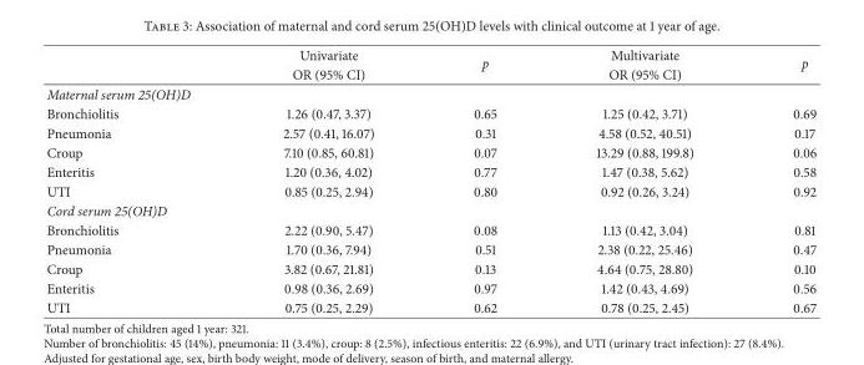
<table><thead><tr><td rowspan="2"></td><td rowspan="2">Univariate OR (95% CI)</td><td rowspan="2">p</td><td rowspan="2">Multivariate OR (95% CI)</td><td rowspan="2">p</td></tr><tr></tr></thead><tbody><tr><td colspan="5">Maternal serum 25(OH)D</td></tr><tr><td>Bronchiolitis</td><td>1.26 (0.47, 3.37)</td><td>0.65</td><td>1.25 (0.42, 3.71)</td><td>0.69</td></tr><tr><td>Pneumonia</td><td>2.57 (0.41, 16.07)</td><td>0.31</td><td>4.58 (0.52, 40.51)</td><td>0.17</td></tr><tr><td>Croup</td><td>7.10 (0.85, 60.81)</td><td>0.07</td><td>13.29 (0.88, 199.8)</td><td>0.06</td></tr><tr><td>Enteritis</td><td>1.20 (0.36, 4.02)</td><td>0.77</td><td>1.47 (0.38, 5.62)</td><td>0.58</td></tr><tr><td>UTI</td><td>0.85 (0.25, 2.94)</td><td>0.80</td><td>0.92 (0.26, 3.24)</td><td>0.92</td></tr><tr><td colspan="5">Cord serum 25(OH)D</td></tr><tr><td>Bronchiolitis</td><td>2.22 (0.90, 5.47)</td><td>0.08</td><td>1.13 (0.42, 3.04)</td><td>0.81</td></tr><tr><td>Pneumonia</td><td>1.70 (0.36, 7.94)</td><td>0.51</td><td>2.38 (0.22, 25.46)</td><td>0.47</td></tr><tr><td>Croup</td><td>3.82 (0.67, 21.81)</td><td>0.13</td><td>4.64 (0.75, 28.80)</td><td>0.10</td></tr><tr><td>Enteritis</td><td>0.98 (0.36, 2.69)</td><td>0.97</td><td>1.42 (0.43, 4.69)</td><td>0.56</td></tr><tr><td>UTI</td><td>0.75 (0.25, 2.29)</td><td>0.62</td><td>0.78 (0.25, 2.45)</td><td>0.67</td></tr></tbody></table>